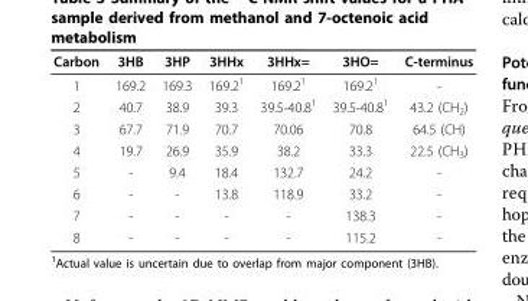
<table><thead><tr><td>Carbon</td><td>3HB</td><td>3HP</td><td>3HHx</td><td>3HHx=</td><td>3HO=</td><td>C-terminus</td></tr></thead><tbody><tr><td>1</td><td>169.2</td><td>169.3</td><td>169.2<sup>1</sup></td><td>169.2<sup>1</sup></td><td>169.2<sup>1</sup></td><td>-</td></tr><tr><td>2</td><td>40.7</td><td>38.9</td><td>39.3</td><td>39.5-40.8<sup>1</sup></td><td>39.5-40.8<sup>1</sup></td><td>43.2 (CH<sub>2</sub>)</td></tr><tr><td>3</td><td>67.7</td><td>71.9</td><td>70.7</td><td>70.06</td><td>70.8</td><td>64.5 (CH)</td></tr><tr><td>4</td><td>19.7</td><td>26.9</td><td>35.9</td><td>38.2</td><td>33.3</td><td>22.5 (CH<sub>3</sub>)</td></tr><tr><td>5</td><td>-</td><td>9.4</td><td>18.4</td><td>132.7</td><td>24.2</td><td>-</td></tr><tr><td>6</td><td>-</td><td>-</td><td>13.8</td><td>118.9</td><td>33.2</td><td>-</td></tr><tr><td>7</td><td>-</td><td>-</td><td>-</td><td>-</td><td>138.3</td><td>-</td></tr><tr><td>8</td><td>-</td><td>-</td><td>-</td><td>-</td><td>115.2</td><td>-</td></tr></tbody></table>